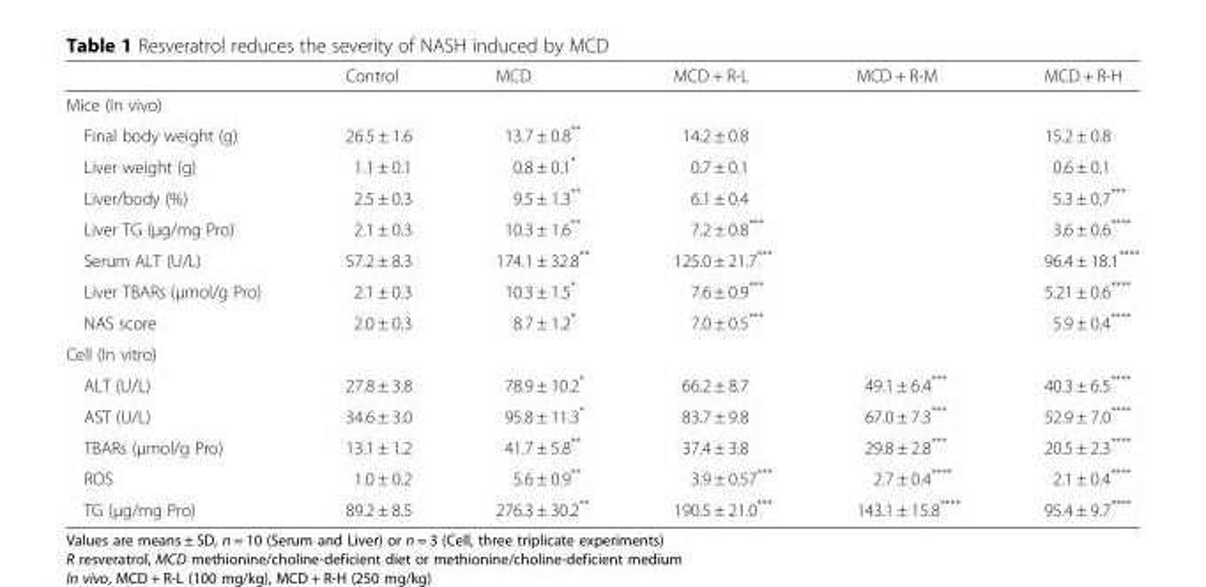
<table><thead><tr><td></td><td>Control</td><td>MCD</td><td>MCD + R-L</td><td>MCD + R-M</td><td>MCD + R-H</td></tr></thead><tbody><tr><td colspan="6">Mice (In vivo)</td></tr><tr><td>Final body weight (g)</td><td>26.5 ± 1.6</td><td>13.7 ± 0.8**</td><td>14.2 ± 0.8</td><td></td><td>15.2 ± 0.8</td></tr><tr><td>Liver weight (g)</td><td>1.1 ± 0.1</td><td>0.8 ± 0.1*</td><td>0.7 ± 0.1</td><td></td><td>0.6 ± 0.1</td></tr><tr><td>Liver/body (%)</td><td>2.5 ± 0.3</td><td>9.5 ± 1.3**</td><td>6.1 ± 0.4</td><td></td><td>5.3 ± 0.7***</td></tr><tr><td>Liver TG (μg/mg Pro)</td><td>2.1 ± 0.3</td><td>10.3 ± 1.6**</td><td>7.2 ± 0.8***</td><td></td><td>3.6 ± 0.6****</td></tr><tr><td>Serum ALT (U/L)</td><td>57.2 ± 8.3</td><td>174.1 ± 32.8**</td><td>125.0 ± 21.7***</td><td></td><td>96.4 ± 18.1****</td></tr><tr><td>Liver TBARs (μmol/g Pro)</td><td>2.1 ± 0.3</td><td>10.3 ± 1.5*</td><td>7.6 ± 0.9***</td><td></td><td>5.21 ± 0.6****</td></tr><tr><td>NAS score</td><td>2.0 ± 0.3</td><td>8.7 ± 1.2*</td><td>7.0 ± 0.5***</td><td></td><td>5.9 ± 0.4****</td></tr><tr><td colspan="6">Cell (In vitro)</td></tr><tr><td>ALT (U/L)</td><td>27.8 ± 3.8</td><td>78.9 ± 10.2*</td><td>66.2 ± 8.7</td><td>49.1 ± 6.4***</td><td>40.3 ± 6.5****</td></tr><tr><td>AST (U/L)</td><td>34.6 ± 3.0</td><td>95.8 ± 11.3*</td><td>83.7 ± 9.8</td><td>67.0 ± 7.3***</td><td>52.9 ± 7.0****</td></tr><tr><td>TBARs (μmol/g Pro)</td><td>13.1 ± 1.2</td><td>41.7 ± 5.8**</td><td>37.4 ± 3.8</td><td>29.8 ± 2.8***</td><td>20.5 ± 2.3****</td></tr><tr><td>ROS</td><td>1.0 ± 0.2</td><td>5.6 ± 0.9**</td><td>3.9 ± 0.57***</td><td>2.7 ± 0.4****</td><td>2.1 ± 0.4****</td></tr><tr><td>TG (μg/mg Pro)</td><td>89.2 ± 8.5</td><td>276.3 ± 30.2**</td><td>190.5 ± 21.0***</td><td>143.1 ± 15.8****</td><td>95.4 ± 9.7****</td></tr></tbody></table>